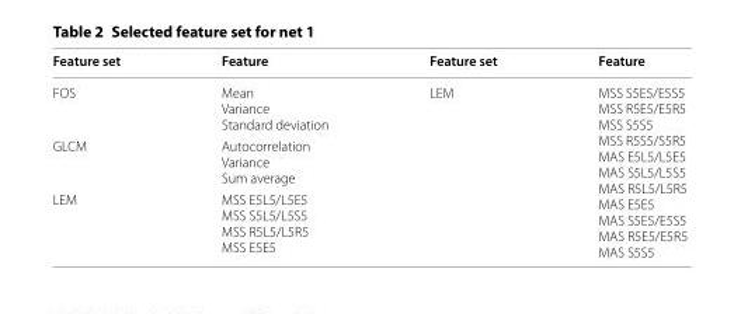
<table><thead><tr><td>Feature set</td><td>Feature</td><td>Feature set</td><td>Feature</td></tr></thead><tbody><tr><td>FOS</td><td>Mean Variance Standard deviation</td><td rowspan="3">LEM</td><td rowspan="3">MSS S5E5/E5S5 MSS R5E5/E5R5 MSS S5S5 MSS R5S5/S5R5 MAS E5L5/L5E5 MAS S5L5/L5S5 MAS R5L5/L5R5 MAS E5E5 MAS S5E5/E5S5 MAS R5E5/E5R5 MAS S5S5</td></tr><tr><td>GLCM</td><td>Autocorrelation Variance Sum average</td></tr><tr><td>LEM</td><td>MSS E5L5/L5E5 MSS S5L5/L5S5 MSS R5L5/L5R5 MSS E5E5</td></tr></tbody></table>